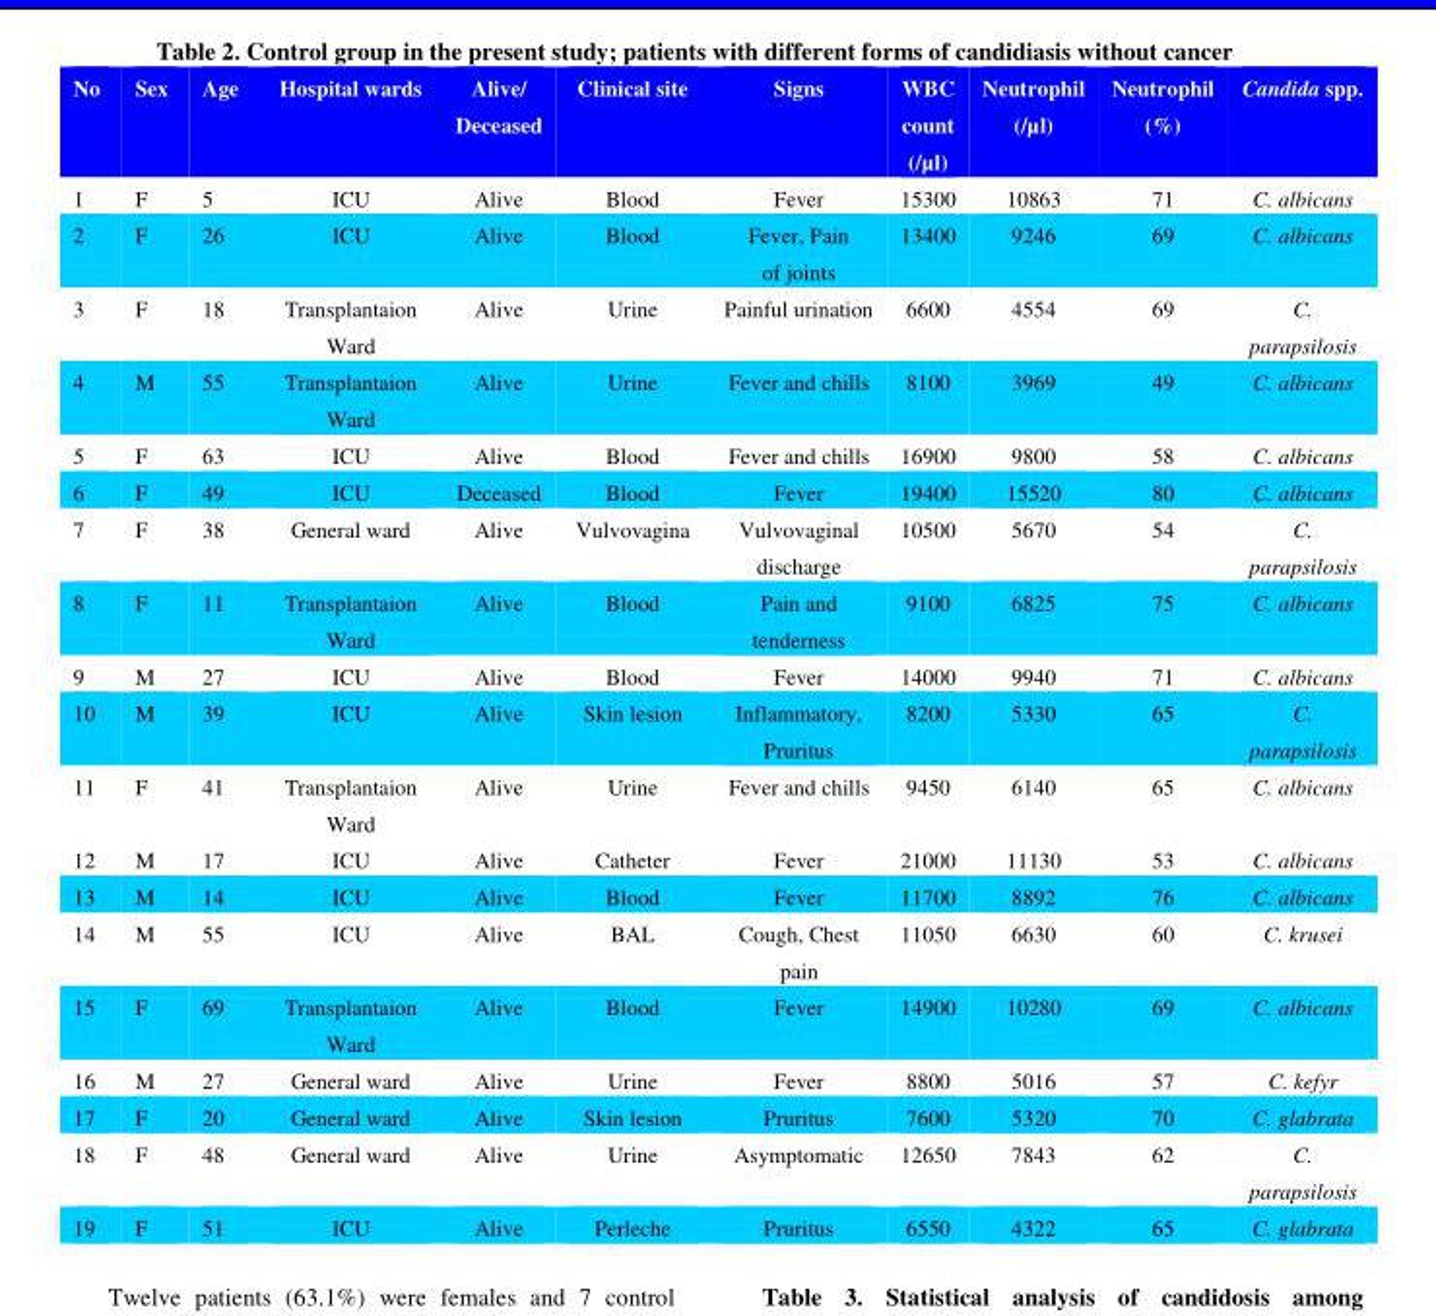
<table><thead><tr><td>No</td><td>Sex</td><td>Age</td><td>Hospital wards</td><td>Alive/ Deceased</td><td>Clinical site</td><td>Signs</td><td>WBC count (/µl)</td><td>Neutrophil (/µl)</td><td>Neutrophil (%)</td><td>Candida spp.</td></tr></thead><tbody><tr><td>1</td><td>F</td><td>5</td><td>ICU</td><td>Alive</td><td>Blood</td><td>Fever</td><td>15300</td><td>10863</td><td>71</td><td>C. albicans</td></tr><tr><td>2</td><td>F</td><td>26</td><td>ICU</td><td>Alive</td><td>Blood</td><td>Fever, Pain of joints</td><td>13400</td><td>9246</td><td>69</td><td>C. albicans</td></tr><tr><td>3</td><td>F</td><td>18</td><td>Transplantaion Ward</td><td>Alive</td><td>Urine</td><td>Painful urination</td><td>6600</td><td>4554</td><td>69</td><td>C. parapsilosis</td></tr><tr><td>4</td><td>M</td><td>55</td><td>Transplantaion Ward</td><td>Alive</td><td>Urine</td><td>Fever and chills</td><td>8100</td><td>3969</td><td>49</td><td>C. albicans</td></tr><tr><td>5</td><td>F</td><td>63</td><td>ICU</td><td>Alive</td><td>Blood</td><td>Fever and chills</td><td>16900</td><td>9800</td><td>58</td><td>C. albicans</td></tr><tr><td>6</td><td>F</td><td>49</td><td>ICU</td><td>Deceased</td><td>Blood</td><td>Fever</td><td>19400</td><td>15520</td><td>80</td><td>C. albicans</td></tr><tr><td>7</td><td>F</td><td>38</td><td>General ward</td><td>Alive</td><td>Vulvovagina</td><td>Vulvovaginal discharge</td><td>10500</td><td>5670</td><td>54</td><td>C. parapsilosis</td></tr><tr><td>8</td><td>F</td><td>11</td><td>Transplantaion Ward</td><td>Alive</td><td>Blood</td><td>Pain and tenderness</td><td>9100</td><td>6825</td><td>75</td><td>C. albicans</td></tr><tr><td>9</td><td>M</td><td>27</td><td>ICU</td><td>Alive</td><td>Blood</td><td>Fever</td><td>14000</td><td>9940</td><td>71</td><td>C. albicans</td></tr><tr><td>10</td><td>M</td><td>39</td><td>ICU</td><td>Alive</td><td>Skin lesion</td><td>Inflammatory, Pruritus</td><td>8200</td><td>5330</td><td>65</td><td>C. parapsilosis</td></tr><tr><td>11</td><td>F</td><td>41</td><td>Transplantaion Ward</td><td>Alive</td><td>Urine</td><td>Fever and chills</td><td>9450</td><td>6140</td><td>65</td><td>C. albicans</td></tr><tr><td>12</td><td>M</td><td>17</td><td>ICU</td><td>Alive</td><td>Catheter</td><td>Fever</td><td>21000</td><td>11130</td><td>53</td><td>C. albicans</td></tr><tr><td>13</td><td>M</td><td>14</td><td>ICU</td><td>Alive</td><td>Blood</td><td>Fever</td><td>11700</td><td>8892</td><td>76</td><td>C. albicans</td></tr><tr><td>14</td><td>M</td><td>55</td><td>ICU</td><td>Alive</td><td>BAL</td><td>Cough, Chest pain</td><td>11050</td><td>6630</td><td>60</td><td>C. krusei</td></tr><tr><td>15</td><td>F</td><td>69</td><td>Transplantaion Ward</td><td>Alive</td><td>Blood</td><td>Fever</td><td>14900</td><td>10280</td><td>69</td><td>C. albicans</td></tr><tr><td>16</td><td>M</td><td>27</td><td>General ward</td><td>Alive</td><td>Urine</td><td>Fever</td><td>8800</td><td>5016</td><td>57</td><td>C. kefyr</td></tr><tr><td>17</td><td>F</td><td>20</td><td>General ward</td><td>Alive</td><td>Skin lesion</td><td>Pruritus</td><td>7600</td><td>5320</td><td>70</td><td>C. glabrata</td></tr><tr><td>18</td><td>F</td><td>48</td><td>General ward</td><td>Alive</td><td>Urine</td><td>Asymptomatic</td><td>12650</td><td>7843</td><td>62</td><td>C. parapsilosis</td></tr><tr><td>19</td><td>F</td><td>51</td><td>ICU</td><td>Alive</td><td>Perleche</td><td>Pruritus</td><td>6550</td><td>4322</td><td>65</td><td>C. glabrata</td></tr></tbody></table>